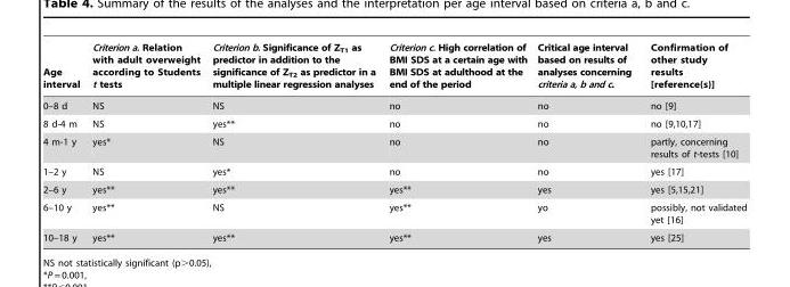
<table><thead><tr><td>Age interval</td><td>Criterion a. Relation with adult overweight according to Students t tests</td><td>Criterion b. Significance of Z<sub>T1</sub> as predictor in addition to the significance of Z<sub>T2</sub> as predictor in a multiple linear regression analyses</td><td>Criterion c. High correlation of BMI SDS at a certain age with BMI SDS at adulthood at the end of the period</td><td>Critical age interval based on results of analyses concerning criteria a, b and c.</td><td>Confirmation of other study results [reference(s)]</td></tr></thead><tbody><tr><td>0–8 d</td><td>NS</td><td>NS</td><td>no</td><td>no</td><td>no [9]</td></tr><tr><td>8 d-4 m</td><td>NS</td><td>yes**</td><td>no</td><td>no</td><td>no [9,10,17]</td></tr><tr><td>4 m-1 y</td><td>yes*</td><td>NS</td><td>no</td><td>no</td><td>partly, concerning results of t-tests [10]</td></tr><tr><td>1–2 y</td><td>NS</td><td>yes*</td><td>no</td><td>no</td><td>yes [17]</td></tr><tr><td>2–6 y</td><td>yes**</td><td>yes**</td><td>yes**</td><td>yes</td><td>yes [5,15,21]</td></tr><tr><td>6–10 y</td><td>yes**</td><td>NS</td><td>yes**</td><td>yo</td><td>possibly, not validated yet [16]</td></tr><tr><td>10–18 y</td><td>yes**</td><td>yes**</td><td>yes**</td><td>yes</td><td>yes [25]</td></tr></tbody></table>